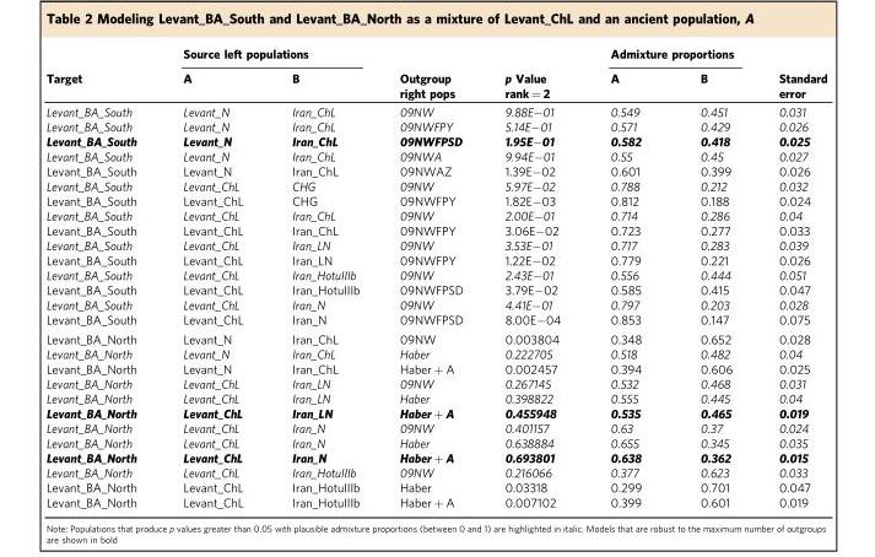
<table><thead><tr><td rowspan="2">Target</td><td colspan="2">Source left populations</td><td rowspan="2">Outgroup right pops</td><td rowspan="2">p Value rank = 2</td><td colspan="2">Admixture proportions</td><td rowspan="2">Standard error</td></tr><tr><td>A</td><td>B</td><td>A</td><td>B</td></tr></thead><tbody><tr><td>Levant_BA_South</td><td>Levant_N</td><td>Iran_ChL</td><td>09NW</td><td>9.88E−01</td><td>0.549</td><td>0.451</td><td>0.031</td></tr><tr><td>Levant_BA_South</td><td>Levant_N</td><td>Iran_ChL</td><td>09NWFPY</td><td>5.14E−01</td><td>0.571</td><td>0.429</td><td>0.026</td></tr><tr><td>Levant_BA_South</td><td>Levant_N</td><td>Iran_ChL</td><td>09NWFPSD</td><td>1.95E−01</td><td>0.582</td><td>0.418</td><td>0.025</td></tr><tr><td>Levant_BA_South</td><td>Levant_N</td><td>Iran_ChL</td><td>09NWA</td><td>9.94E−01</td><td>0.55</td><td>0.45</td><td>0.027</td></tr><tr><td>Levant_BA_South</td><td>Levant_N</td><td>Iran_ChL</td><td>09NWAZ</td><td>1.39E−02</td><td>0.601</td><td>0.399</td><td>0.026</td></tr><tr><td>Levant_BA_South</td><td>Levant_ChL</td><td>CHG</td><td>09NW</td><td>5.97E−02</td><td>0.788</td><td>0.212</td><td>0.032</td></tr><tr><td>Levant_BA_South</td><td>Levant_ChL</td><td>CHG</td><td>09NWFPY</td><td>1.82E−03</td><td>0.812</td><td>0.188</td><td>0.024</td></tr><tr><td>Levant_BA_South</td><td>Levant_ChL</td><td>Iran_ChL</td><td>09NW</td><td>2.00E−01</td><td>0.714</td><td>0.286</td><td>0.04</td></tr><tr><td>Levant_BA_South</td><td>Levant_ChL</td><td>Iran_ChL</td><td>09NWFPY</td><td>3.06E−02</td><td>0.723</td><td>0.277</td><td>0.033</td></tr><tr><td>Levant_BA_South</td><td>Levant_ChL</td><td>Iran_LN</td><td>09NW</td><td>3.53E−01</td><td>0.717</td><td>0.283</td><td>0.039</td></tr><tr><td>Levant_BA_South</td><td>Levant_ChL</td><td>Iran_LN</td><td>09NWFPY</td><td>1.22E−02</td><td>0.779</td><td>0.221</td><td>0.026</td></tr><tr><td>Levant_BA_South</td><td>Levant_ChL</td><td>Iran_HotuIIIb</td><td>09NW</td><td>2.43E−01</td><td>0.556</td><td>0.444</td><td>0.051</td></tr><tr><td>Levant_BA_South</td><td>Levant_ChL</td><td>Iran_HotuIIIb</td><td>09NWFPSD</td><td>3.79E−02</td><td>0.585</td><td>0.415</td><td>0.047</td></tr><tr><td>Levant_BA_South</td><td>Levant_ChL</td><td>Iran_N</td><td>09NW</td><td>4.41E−01</td><td>0.797</td><td>0.203</td><td>0.028</td></tr><tr><td>Levant_BA_South</td><td>Levant_ChL</td><td>Iran_N</td><td>09NWFPSD</td><td>8.00E−04</td><td>0.853</td><td>0.147</td><td>0.075</td></tr><tr><td>Levant_BA_North</td><td>Levant_N</td><td>Iran_ChL</td><td>09NW</td><td>0.003804</td><td>0.348</td><td>0.652</td><td>0.028</td></tr><tr><td>Levant_BA_North</td><td>Levant_N</td><td>Iran_ChL</td><td>Haber</td><td>0.222705</td><td>0.518</td><td>0.482</td><td>0.04</td></tr><tr><td>Levant_BA_North</td><td>Levant_N</td><td>Iran_ChL</td><td>Haber + A</td><td>0.002457</td><td>0.394</td><td>0.606</td><td>0.025</td></tr><tr><td>Levant_BA_North</td><td>Levant_ChL</td><td>Iran_LN</td><td>09NW</td><td>0.267145</td><td>0.532</td><td>0.468</td><td>0.031</td></tr><tr><td>Levant_BA_North</td><td>Levant_ChL</td><td>Iran_LN</td><td>Haber</td><td>0.398822</td><td>0.555</td><td>0.445</td><td>0.04</td></tr><tr><td>Levant_BA_North</td><td>Levant_ChL</td><td>Iran_LN</td><td>Haber + A</td><td>0.455948</td><td>0.535</td><td>0.465</td><td>0.019</td></tr><tr><td>Levant_BA_North</td><td>Levant_ChL</td><td>Iran_N</td><td>09NW</td><td>0.401157</td><td>0.63</td><td>0.37</td><td>0.024</td></tr><tr><td>Levant_BA_North</td><td>Levant_ChL</td><td>Iran_N</td><td>Haber</td><td>0.638884</td><td>0.655</td><td>0.345</td><td>0.035</td></tr><tr><td>Levant_BA_North</td><td>Levant_ChL</td><td>Iran_N</td><td>Haber + A</td><td>0.693801</td><td>0.638</td><td>0.362</td><td>0.015</td></tr><tr><td>Levant_BA_North</td><td>Levant_ChL</td><td>Iran_HotuIIIb</td><td>09NW</td><td>0.216066</td><td>0.377</td><td>0.623</td><td>0.033</td></tr><tr><td>Levant_BA_North</td><td>Levant_ChL</td><td>Iran_HotuIIIb</td><td>Haber</td><td>0.03318</td><td>0.299</td><td>0.701</td><td>0.047</td></tr><tr><td>Levant_BA_North</td><td>Levant_ChL</td><td>Iran_HotuIIIb</td><td>Haber + A</td><td>0.007102</td><td>0.399</td><td>0.601</td><td>0.019</td></tr></tbody></table>